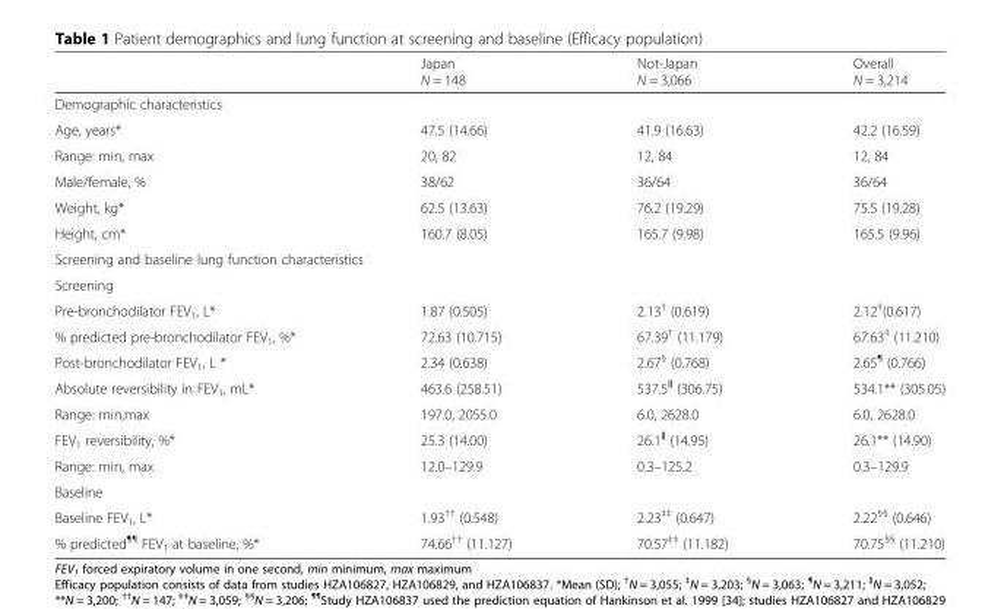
<table><thead><tr><td></td><td>Japan N = 148</td><td>Not-Japan N = 3,066</td><td>Overall N = 3,214</td></tr></thead><tbody><tr><td colspan="4">Demographic characteristics</td></tr><tr><td>Age, years*</td><td>47.5 (14.66)</td><td>41.9 (16.63)</td><td>42.2 (16.59)</td></tr><tr><td>Range: min, max</td><td>20, 82</td><td>12, 84</td><td>12, 84</td></tr><tr><td>Male/female, %</td><td>38/62</td><td>36/64</td><td>36/64</td></tr><tr><td>Weight, kg*</td><td>62.5 (13.63)</td><td>76.2 (19.29)</td><td>75.5 (19.28)</td></tr><tr><td>Height, cm*</td><td>160.7 (8.05)</td><td>165.7 (9.98)</td><td>165.5 (9.96)</td></tr><tr><td colspan="4">Screening and baseline lung function characteristics</td></tr><tr><td colspan="4">Screening</td></tr><tr><td>Pre-bronchodilator FEV<sub>1</sub>, L*</td><td>1.87 (0.505)</td><td>2.13<sup>†</sup> (0.619)</td><td>2.12<sup>‡</sup>(0.617)</td></tr><tr><td>% predicted pre-bronchodilator FEV<sub>1</sub>, %*</td><td>72.63 (10.715)</td><td>67.39<sup>†</sup> (11.179)</td><td>67.63<sup>‡</sup> (11.210)</td></tr><tr><td>Post-bronchodilator FEV<sub>1</sub>, L *</td><td>2.34 (0.638)</td><td>2.67<sup>§</sup> (0.768)</td><td>2.65<sup>¶</sup> (0.766)</td></tr><tr><td>Absolute reversibility in FEV<sub>1</sub>, mL*</td><td>463.6 (258.51)</td><td>537.5<sup>‖</sup> (306.75)</td><td>534.1** (305.05)</td></tr><tr><td>Range: min,max</td><td>197.0, 2055.0</td><td>6.0, 2628.0</td><td>6.0, 2628.0</td></tr><tr><td>FEV<sub>1</sub> reversibility, %*</td><td>25.3 (14.00)</td><td>26.1<sup>‖</sup> (14.95)</td><td>26.1** (14.90)</td></tr><tr><td>Range: min, max</td><td>12.0–129.9</td><td>0.3–125.2</td><td>0.3–129.9</td></tr><tr><td colspan="4">Baseline</td></tr><tr><td>Baseline FEV<sub>1</sub>, L*</td><td>1.93<sup>††</sup> (0.548)</td><td>2.23<sup>‡‡</sup> (0.647)</td><td>2.22<sup>§§</sup> (0.646)</td></tr><tr><td>% predicted<sup>¶¶</sup> FEV<sub>1</sub> at baseline, %*</td><td>74.66<sup>††</sup> (11.127)</td><td>70.57<sup>‡‡</sup> (11.182)</td><td>70.75<sup>§§</sup> (11.210)</td></tr></tbody></table>